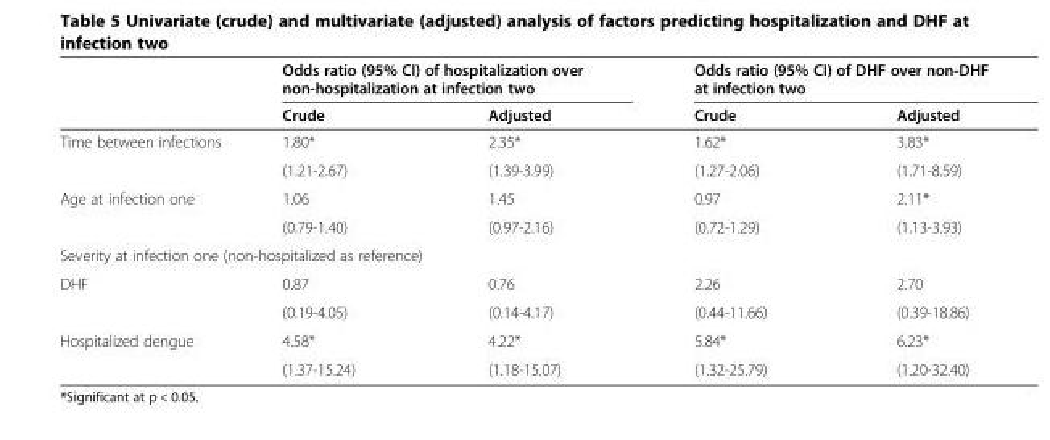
<table><thead><tr><td rowspan="2"></td><td colspan="2">Odds ratio (95% CI) of hospitalization over non-hospitalization at infection two</td><td colspan="2">Odds ratio (95% CI) of DHF over non-DHF at infection two</td></tr><tr><td>Crude</td><td>Adjusted</td><td>Crude</td><td>Adjusted</td></tr></thead><tbody><tr><td rowspan="2">Time between infections</td><td>1.80*</td><td>2.35*</td><td>1.62*</td><td>3.83*</td></tr><tr><td>(1.21-2.67)</td><td>(1.39-3.99)</td><td>(1.27-2.06)</td><td>(1.71-8.59)</td></tr><tr><td rowspan="2">Age at infection one</td><td>1.06</td><td>1.45</td><td>0.97</td><td>2.11*</td></tr><tr><td>(0.79-1.40)</td><td>(0.97-2.16)</td><td>(0.72-1.29)</td><td>(1.13-3.93)</td></tr><tr><td colspan="5">Severity at infection one (non-hospitalized as reference)</td></tr><tr><td rowspan="2">DHF</td><td>0.87</td><td>0.76</td><td>2.26</td><td>2.70</td></tr><tr><td>(0.19-4.05)</td><td>(0.14-4.17)</td><td>(0.44-11.66)</td><td>(0.39-18.86)</td></tr><tr><td rowspan="2">Hospitalized dengue</td><td>4.58*</td><td>4.22*</td><td>5.84*</td><td>6.23*</td></tr><tr><td>(1.37-15.24)</td><td>(1.18-15.07)</td><td>(1.32-25.79)</td><td>(1.20-32.40)</td></tr></tbody></table>